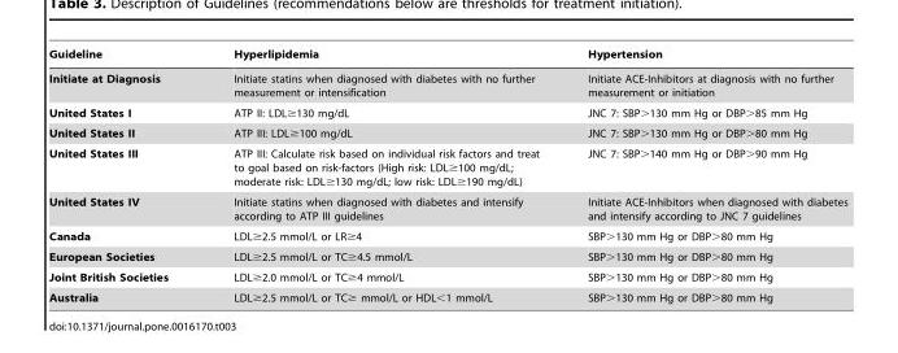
<table><thead><tr><td>Guideline</td><td>Hyperlipidemia</td><td>Hypertension</td></tr></thead><tbody><tr><td>Initiate at Diagnosis</td><td>Initiate statins when diagnosed with diabetes with no further measurement or intensification</td><td>Initiate ACE-Inhibitors at diagnosis with no further measurement or initiation</td></tr><tr><td>United States I</td><td>ATP II: LDL≥130 mg/dL</td><td>JNC 7: SBP&gt;130 mm Hg or DBP&gt;85 mm Hg</td></tr><tr><td>United States II</td><td>ATP III: LDL≥100 mg/dL</td><td>JNC 7: SBP&gt;130 mm Hg or DBP&gt;80 mm Hg</td></tr><tr><td>United States III</td><td>ATP III: Calculate risk based on individual risk factors and treat to goal based on risk-factors (High risk: LDL≥100 mg/dL; moderate risk: LDL≥130 mg/dL; low risk: LDL≥190 mg/dL)</td><td>JNC 7: SBP&gt;140 mm Hg or DBP&gt;90 mm Hg</td></tr><tr><td>United States IV</td><td>Initiate statins when diagnosed with diabetes and intensify according to ATP III guidelines</td><td>Initiate ACE-Inhibitors when diagnosed with diabetes and intensify according to JNC 7 guidelines</td></tr><tr><td>Canada</td><td>LDL≥2.5 mmol/L or LR≥4</td><td>SBP&gt;130 mm Hg or DBP&gt;80 mm Hg</td></tr><tr><td>European Societies</td><td>LDL≥2.5 mmol/L or TC≥4.5 mmol/L</td><td>SBP&gt;130 mm Hg or DBP&gt;80 mm Hg</td></tr><tr><td>Joint British Societies</td><td>LDL≥2.0 mmol/L or TC≥4 mmol/L</td><td>SBP&gt;130 mm Hg or DBP&gt;80 mm Hg</td></tr><tr><td>Australia</td><td>LDL≥2.5 mmol/L or TC≥ mmol/L or HDL&lt;1 mmol/L</td><td>SBP&gt;130 mm Hg or DBP&gt;80 mm Hg</td></tr></tbody></table>